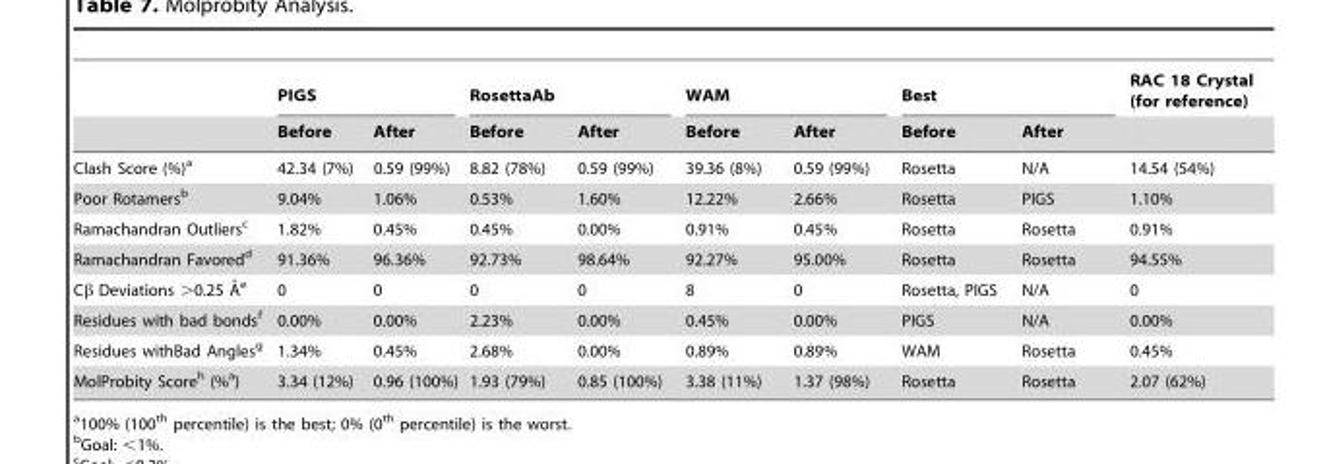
<table><thead><tr><td rowspan="2"></td><td colspan="2">PIGS</td><td colspan="2">RosettaAb</td><td colspan="2">WAM</td><td colspan="2">Best</td><td rowspan="2">RAC 18 Crystal (for reference)</td></tr><tr><td>Before</td><td>After</td><td>Before</td><td>After</td><td>Before</td><td>After</td><td>Before</td><td>After</td></tr></thead><tbody><tr><td>Clash Score (%)<sup>a</sup></td><td>42.34 (7%)</td><td>0.59 (99%)</td><td>8.82 (78%)</td><td>0.59 (99%)</td><td>39.36 (8%)</td><td>0.59 (99%)</td><td>Rosetta</td><td>N/A</td><td>14.54 (54%)</td></tr><tr><td>Poor Rotamers<sup>b</sup></td><td>9.04%</td><td>1.06%</td><td>0.53%</td><td>1.60%</td><td>12.22%</td><td>2.66%</td><td>Rosetta</td><td>PIGS</td><td>1.10%</td></tr><tr><td>Ramachandran Outliers<sup>c</sup></td><td>1.82%</td><td>0.45%</td><td>0.45%</td><td>0.00%</td><td>0.91%</td><td>0.45%</td><td>Rosetta</td><td>Rosetta</td><td>0.91%</td></tr><tr><td>Ramachandran Favored<sup>d</sup></td><td>91.36%</td><td>96.36%</td><td>92.73%</td><td>98.64%</td><td>92.27%</td><td>95.00%</td><td>Rosetta</td><td>Rosetta</td><td>94.55%</td></tr><tr><td>Cb Deviations .0.25 A˚ e</td><td>0</td><td>0</td><td>0</td><td>0</td><td>8</td><td>0</td><td>Rosetta, PIGS</td><td>N/A</td><td>0</td></tr><tr><td>Residues with bad bonds<sup>f</sup></td><td>0.00%</td><td>0.00%</td><td>2.23%</td><td>0.00%</td><td>0.45%</td><td>0.00%</td><td>PIGS</td><td>N/A</td><td>0.00%</td></tr><tr><td>Residues withBad Angles<sup>g</sup></td><td>1.34%</td><td>0.45%</td><td>2.68%</td><td>0.00%</td><td>0.89%</td><td>0.89%</td><td>WAM</td><td>Rosetta</td><td>0.45%</td></tr><tr><td>MolProbity Score<sup>h</sup> (%<sup>a</sup>)</td><td>3.34 (12%)</td><td>0.96 (100%)</td><td>1.93 (79%)</td><td>0.85 (100%)</td><td>3.38 (11%)</td><td>1.37 (98%)</td><td>Rosetta</td><td>Rosetta</td><td>2.07 (62%)</td></tr></tbody></table>